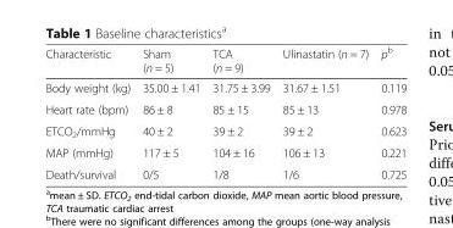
<table><thead><tr><td>Characteristic</td><td>Sham (n = 5)</td><td>TCA (n = 9)</td><td>Ulinastatin (n = 7)</td><td>p<sup>b</sup></td></tr></thead><tbody><tr><td>Body weight (kg)</td><td>35.00 ± 1.41</td><td>31.75 ± 3.99</td><td>31.67 ± 1.51</td><td>0.119</td></tr><tr><td>Heart rate (bpm)</td><td>86 ± 8</td><td>85 ± 15</td><td>85 ± 13</td><td>0.978</td></tr><tr><td>ETCO<sub>2</sub>/mmHg</td><td>40 ± 2</td><td>39 ± 2</td><td>39 ± 2</td><td>0.623</td></tr><tr><td>MAP (mmHg)</td><td>117 ± 5</td><td>104 ± 16</td><td>106 ± 13</td><td>0.221</td></tr><tr><td>Death/survival</td><td>0/5</td><td>1/8</td><td>1/6</td><td>0.725</td></tr></tbody></table>